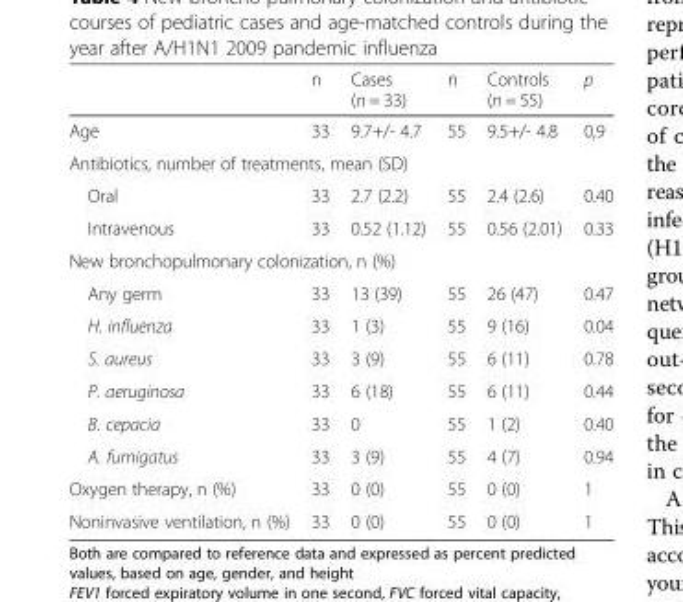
<table><thead><tr><td></td><td>n</td><td>Cases (n = 33)</td><td>n</td><td>Controls (n = 55)</td><td>p</td></tr></thead><tbody><tr><td>Age</td><td>33</td><td>9.7+/- 4.7</td><td>55</td><td>9.5+/- 4.8</td><td>0,9</td></tr><tr><td colspan="6">Antibiotics, number of treatments, mean (SD)</td></tr><tr><td>Oral</td><td>33</td><td>2.7 (2.2)</td><td>55</td><td>2.4 (2.6)</td><td>0.40</td></tr><tr><td>Intravenous</td><td>33</td><td>0.52 (1.12)</td><td>55</td><td>0.56 (2.01)</td><td>0.33</td></tr><tr><td colspan="6">New bronchopulmonary colonization, n (%)</td></tr><tr><td>Any germ</td><td>33</td><td>13 (39)</td><td>55</td><td>26 (47)</td><td>0.47</td></tr><tr><td>H. influenza</td><td>33</td><td>1 (3)</td><td>55</td><td>9 (16)</td><td>0.04</td></tr><tr><td>S. aureus</td><td>33</td><td>3 (9)</td><td>55</td><td>6 (11)</td><td>0.78</td></tr><tr><td>P. aeruginosa</td><td>33</td><td>6 (18)</td><td>55</td><td>6 (11)</td><td>0.44</td></tr><tr><td>B. cepacia</td><td>33</td><td>0</td><td>55</td><td>1 (2)</td><td>0.40</td></tr><tr><td>A. fumigatus</td><td>33</td><td>3 (9)</td><td>55</td><td>4 (7)</td><td>0.94</td></tr><tr><td>Oxygen therapy, n (%)</td><td>33</td><td>0 (0)</td><td>55</td><td>0 (0)</td><td>1</td></tr><tr><td>Noninvasive ventilation, n (%)</td><td>33</td><td>0 (0)</td><td>55</td><td>0 (0)</td><td>1</td></tr></tbody></table>